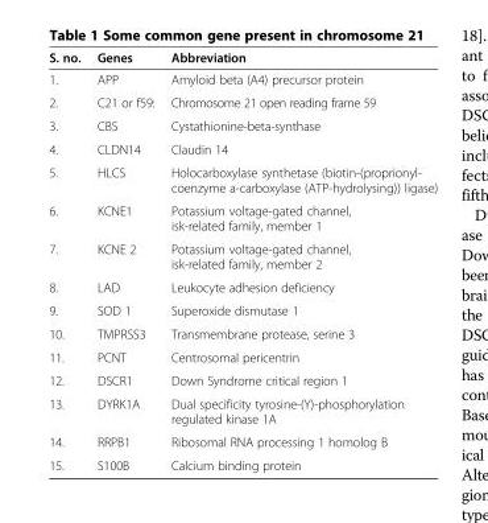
<table><thead><tr><td>S. no.</td><td>Genes</td><td>Abbreviation</td></tr></thead><tbody><tr><td>1.</td><td>APP</td><td>Amyloid beta (A4) precursor protein</td></tr><tr><td>2.</td><td>C21 or f59:</td><td>Chromosome 21 open reading frame 59</td></tr><tr><td>3.</td><td>CBS</td><td>Cystathionine-beta-synthase</td></tr><tr><td>4.</td><td>CLDN14</td><td>Claudin 14</td></tr><tr><td>5.</td><td>HLCS</td><td>Holocarboxylase synthetase (biotin-(proprionyl- coenzyme a-carboxylase (ATP-hydrolysing)) ligase)</td></tr><tr><td>6.</td><td>KCNE1</td><td>Potassium voltage-gated channel, isk-related family, member 1</td></tr><tr><td>7.</td><td>KCNE 2</td><td>Potassium voltage-gated channel, isk-related family, member 2</td></tr><tr><td>8.</td><td>LAD</td><td>Leukocyte adhesion deficiency</td></tr><tr><td>9.</td><td>SOD 1</td><td>Superoxide dismutase 1</td></tr><tr><td>10.</td><td>TMPRSS3</td><td>Transmembrane protease, serine 3</td></tr><tr><td>11.</td><td>PCNT</td><td>Centrosomal pericentrin</td></tr><tr><td>12.</td><td>DSCR1</td><td>Down Syndrome critical region 1</td></tr><tr><td>13.</td><td>DYRK1A</td><td>Dual specificity tyrosine-(Y)-phosphorylation regulated kinase 1A</td></tr><tr><td>14.</td><td>RRPB1</td><td>Ribosomal RNA processing 1 homolog B</td></tr><tr><td>15.</td><td>S100B</td><td>Calcium binding protein</td></tr></tbody></table>